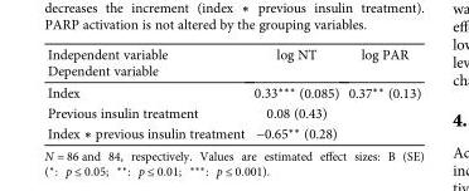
<table><thead><tr><td rowspan="2">Independent variable Dependent variable</td><td rowspan="2">log NT</td><td rowspan="2">log PAR</td></tr><tr></tr></thead><tbody><tr><td>Index</td><td>0.33∗∗∗ (0.085)</td><td>0.37∗∗ (0.13)</td></tr><tr><td>Previous insulin treatment</td><td>0.08 (0.43)</td><td></td></tr><tr><td>Index ∗ previous insulin treatment</td><td>−0.65∗∗ (0.28)</td><td></td></tr></tbody></table>